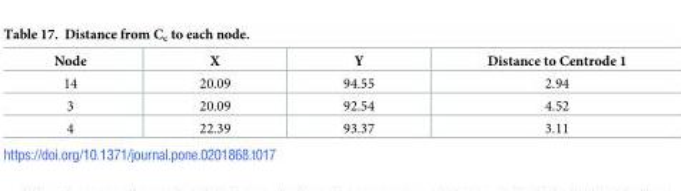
<table><thead><tr><td>Node</td><td>X</td><td>Y</td><td>Distance to Centrode 1</td></tr></thead><tbody><tr><td>14</td><td>20.09</td><td>94.55</td><td>2.94</td></tr><tr><td>3</td><td>20.09</td><td>92.54</td><td>4.52</td></tr><tr><td>4</td><td>22.39</td><td>93.37</td><td>3.11</td></tr></tbody></table>